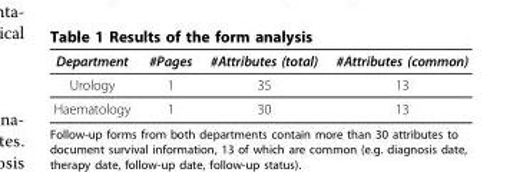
<table><thead><tr><td>Department</td><td>#Pages</td><td>#Attributes (total)</td><td>#Attributes (common)</td></tr></thead><tbody><tr><td>Urology</td><td>1</td><td>35</td><td>13</td></tr><tr><td>Haematology</td><td>1</td><td>30</td><td>13</td></tr></tbody></table>